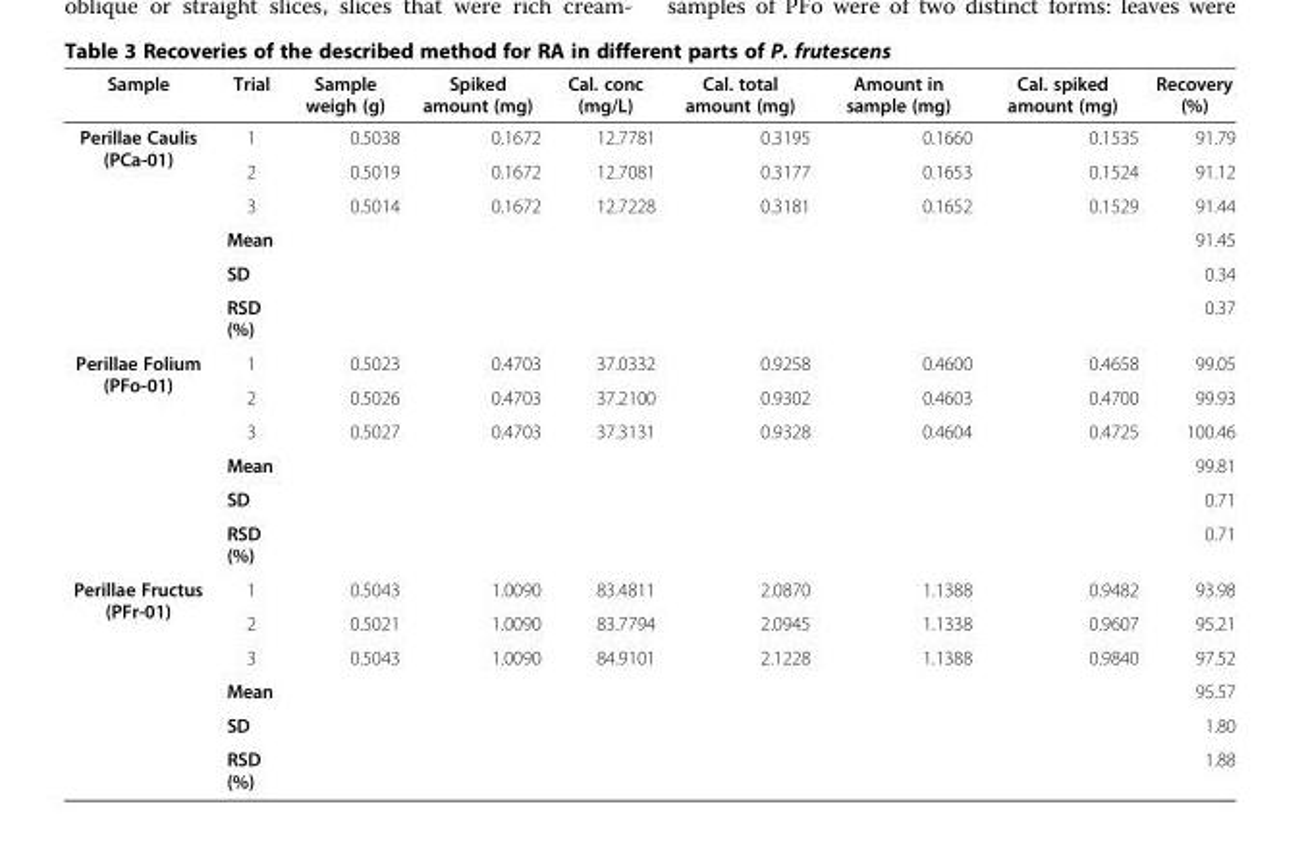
<table><thead><tr><td>Sample</td><td>Trial</td><td>Sample weigh (g)</td><td>Spiked amount (mg)</td><td>Cal. conc (mg/L)</td><td>Cal. total amount (mg)</td><td>Amount in sample (mg)</td><td>Cal. spiked amount (mg)</td><td>Recovery (%)</td></tr></thead><tbody><tr><td rowspan="6">Perillae Caulis (PCa-01)</td><td>1</td><td>0.5038</td><td>0.1672</td><td>12.7781</td><td>0.3195</td><td>0.1660</td><td>0.1535</td><td>91.79</td></tr><tr><td>2</td><td>0.5019</td><td>0.1672</td><td>12.7081</td><td>0.3177</td><td>0.1653</td><td>0.1524</td><td>91.12</td></tr><tr><td>3</td><td>0.5014</td><td>0.1672</td><td>12.7228</td><td>0.3181</td><td>0.1652</td><td>0.1529</td><td>91.44</td></tr><tr><td>Mean</td><td colspan="7">91.45</td></tr><tr><td>SD</td><td colspan="7">0.34</td></tr><tr><td>RSD (%)</td><td colspan="7">0.37</td></tr><tr><td rowspan="6">Perillae Folium (PFo-01)</td><td>1</td><td>0.5023</td><td>0.4703</td><td>37.0332</td><td>0.9258</td><td>0.4600</td><td>0.4658</td><td>99.05</td></tr><tr><td>2</td><td>0.5026</td><td>0.4703</td><td>37.2100</td><td>0.9302</td><td>0.4603</td><td>0.4700</td><td>99.93</td></tr><tr><td>3</td><td>0.5027</td><td>0.4703</td><td>37.3131</td><td>0.9328</td><td>0.4604</td><td>0.4725</td><td>100.46</td></tr><tr><td>Mean</td><td colspan="7">99.81</td></tr><tr><td>SD</td><td colspan="7">0.71</td></tr><tr><td>RSD (%)</td><td colspan="7">0.71</td></tr><tr><td rowspan="6">Perillae Fructus (PFr-01)</td><td>1</td><td>0.5043</td><td>1.0090</td><td>83.4811</td><td>2.0870</td><td>1.1388</td><td>0.9482</td><td>93.98</td></tr><tr><td>2</td><td>0.5021</td><td>1.0090</td><td>83.7794</td><td>2.0945</td><td>1.1338</td><td>0.9607</td><td>95.21</td></tr><tr><td>3</td><td>0.5043</td><td>1.0090</td><td>84.9101</td><td>2.1228</td><td>1.1388</td><td>0.9840</td><td>97.52</td></tr><tr><td>Mean</td><td colspan="7">95.57</td></tr><tr><td>SD</td><td colspan="7">1.80</td></tr><tr><td>RSD (%)</td><td colspan="7">1.88</td></tr></tbody></table>